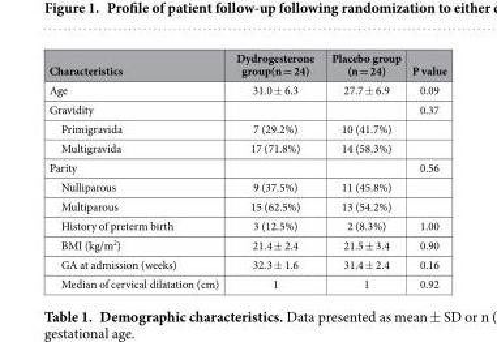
<table><thead><tr><td>Characteristics</td><td>Dydrogesterone group(n = 24)</td><td>Placebo group (n = 24)</td><td>P value</td></tr></thead><tbody><tr><td>Age</td><td>31.0 ± 6.3</td><td>27.7 ± 6.9</td><td>0.09</td></tr><tr><td>Gravidity</td><td></td><td></td><td>0.37</td></tr><tr><td>Primigravida</td><td>7 (29.2%)</td><td>10 (41.7%)</td><td></td></tr><tr><td>Multigravida</td><td>17 (71.8%)</td><td>14 (58.3%)</td><td></td></tr><tr><td>Parity</td><td></td><td></td><td>0.56</td></tr><tr><td>Nulliparous</td><td>9 (37.5%)</td><td>11 (45.8%)</td><td></td></tr><tr><td>Multiparous</td><td>15 (62.5%)</td><td>13 (54.2%)</td><td></td></tr><tr><td>History of preterm birth</td><td>3 (12.5%)</td><td>2 (8.3%)</td><td>1.00</td></tr><tr><td>BMI (kg/m<sup>2</sup>)</td><td>21.4 ± 2.4</td><td>21.5 ± 3.4</td><td>0.90</td></tr><tr><td>GA at admission (weeks)</td><td>32.3 ± 1.6</td><td>31.4 ± 2.4</td><td>0.16</td></tr><tr><td>Median of cervical dilatation (cm)</td><td>1</td><td>1</td><td>0.92</td></tr></tbody></table>